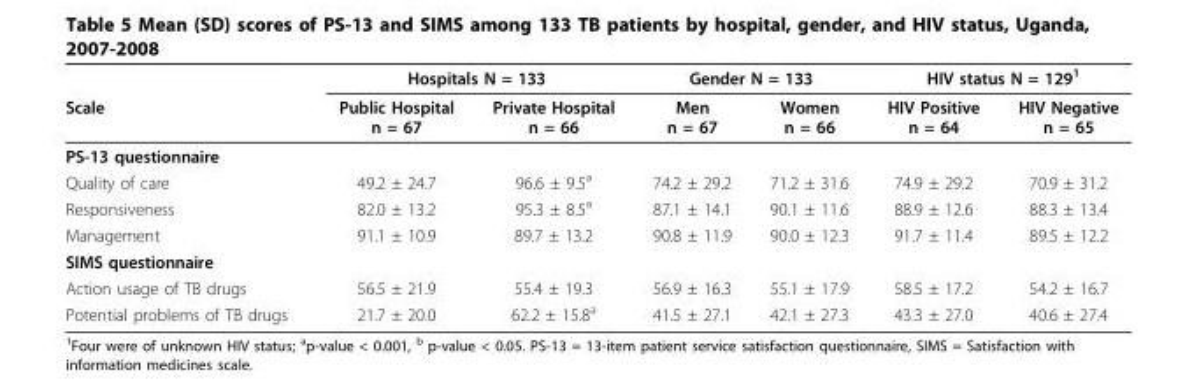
<table><thead><tr><td rowspan="2">Scale</td><td colspan="2">Hospitals N = 133</td><td colspan="2">Gender N = 133</td><td colspan="2">HIV status N = 129<sup>1</sup></td></tr><tr><td>Public Hospital n = 67</td><td>Private Hospital n = 66</td><td>Men n = 67</td><td>Women n = 66</td><td>HIV Positive n = 64</td><td>HIV Negative n = 65</td></tr></thead><tbody><tr><td colspan="7">PS-13 questionnaire</td></tr><tr><td>Quality of care</td><td>49.2 ± 24.7</td><td>96.6 ± 9.5<sup>a</sup></td><td>74.2 ± 29.2</td><td>71.2 ± 31.6</td><td>74.9 ± 29.2</td><td>70.9 ± 31.2</td></tr><tr><td>Responsiveness</td><td>82.0 ± 13.2</td><td>95.3 ± 8.5<sup>a</sup></td><td>87.1 ± 14.1</td><td>90.1 ± 11.6</td><td>88.9 ± 12.6</td><td>88.3 ± 13.4</td></tr><tr><td>Management</td><td>91.1 ± 10.9</td><td>89.7 ± 13.2</td><td>90.8 ± 11.9</td><td>90.0 ± 12.3</td><td>91.7 ± 11.4</td><td>89.5 ± 12.2</td></tr><tr><td colspan="7">SIMS questionnaire</td></tr><tr><td>Action usage of TB drugs</td><td>56.5 ± 21.9</td><td>55.4 ± 19.3</td><td>56.9 ± 16.3</td><td>55.1 ± 17.9</td><td>58.5 ± 17.2</td><td>54.2 ± 16.7</td></tr><tr><td>Potential problems of TB drugs</td><td>21.7 ± 20.0</td><td>62.2 ± 15.8<sup>a</sup></td><td>41.5 ± 27.1</td><td>42.1 ± 27.3</td><td>43.3 ± 27.0</td><td>40.6 ± 27.4</td></tr></tbody></table>